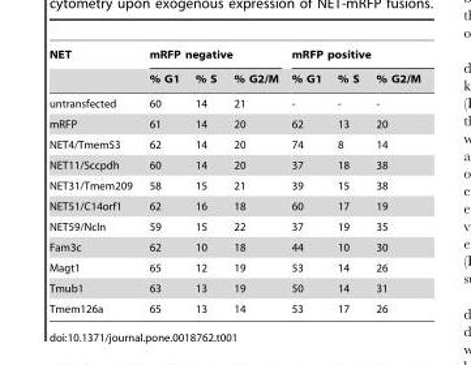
<table><thead><tr><td rowspan="2">NET</td><td colspan="3">mRFP negative</td><td colspan="3">mRFP positive</td></tr><tr><td>% G1</td><td>% S</td><td>% G2/M</td><td>% G1</td><td>% S</td><td>% G2/M</td></tr></thead><tbody><tr><td>untransfected</td><td>60</td><td>14</td><td>21</td><td>-</td><td>-</td><td>-</td></tr><tr><td>mRFP</td><td>61</td><td>14</td><td>20</td><td>62</td><td>13</td><td>20</td></tr><tr><td>NET4/Tmem53</td><td>62</td><td>14</td><td>20</td><td>74</td><td>8</td><td>14</td></tr><tr><td>NET11/Sccpdh</td><td>60</td><td>14</td><td>20</td><td>37</td><td>18</td><td>38</td></tr><tr><td>NET31/Tmem209</td><td>58</td><td>15</td><td>21</td><td>39</td><td>15</td><td>38</td></tr><tr><td>NET51/C14orf1</td><td>62</td><td>16</td><td>18</td><td>60</td><td>17</td><td>19</td></tr><tr><td>NET59/Ncln</td><td>59</td><td>15</td><td>22</td><td>37</td><td>19</td><td>35</td></tr><tr><td>Fam3c</td><td>62</td><td>10</td><td>18</td><td>44</td><td>10</td><td>30</td></tr><tr><td>Magt1</td><td>65</td><td>12</td><td>19</td><td>53</td><td>14</td><td>26</td></tr><tr><td>Tmub1</td><td>63</td><td>13</td><td>19</td><td>50</td><td>14</td><td>31</td></tr><tr><td>Tmem126a</td><td>65</td><td>13</td><td>14</td><td>53</td><td>17</td><td>26</td></tr></tbody></table>